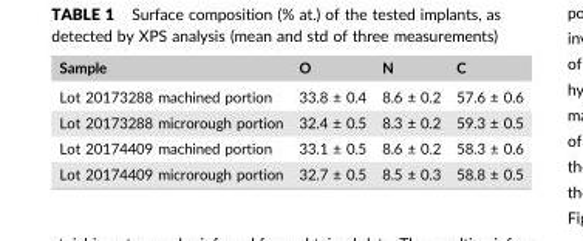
<table><thead><tr><td>Sample</td><td>O</td><td>N</td><td>C</td></tr></thead><tbody><tr><td>Lot 20173288 machined portion</td><td>33.8 ± 0.4</td><td>8.6 ± 0.2</td><td>57.6 ± 0.6</td></tr><tr><td>Lot 20173288 microrough portion</td><td>32.4 ± 0.5</td><td>8.3 ± 0.2</td><td>59.3 ± 0.5</td></tr><tr><td>Lot 20174409 machined portion</td><td>33.1 ± 0.5</td><td>8.6 ± 0.2</td><td>58.3 ± 0.6</td></tr><tr><td>Lot 20174409 microrough portion</td><td>32.7 ± 0.5</td><td>8.5 ± 0.3</td><td>58.8 ± 0.5</td></tr></tbody></table>